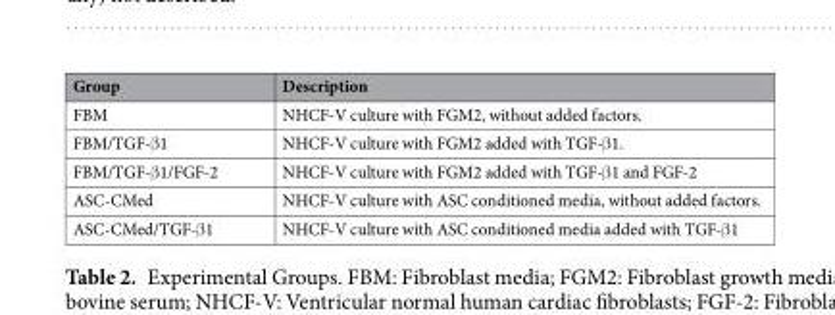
<table><thead><tr><td>Group</td><td>Description</td></tr></thead><tbody><tr><td>FBM</td><td>NHCF-V culture with FGM2, without added factors.</td></tr><tr><td>FBM/TGF-β1</td><td>NHCF-V culture with FGM2 added with TGF-β1.</td></tr><tr><td>FBM/TGF-β1/FGF-2</td><td>NHCF-V culture with FGM2 added with TGF-β1 and FGF-2</td></tr><tr><td>ASC-CMed</td><td>NHCF-V culture with ASC conditioned media, without added factors.</td></tr><tr><td>ASC-CMed/TGF-β1</td><td>NHCF-V culture with ASC conditioned media added with TGF-β1</td></tr></tbody></table>